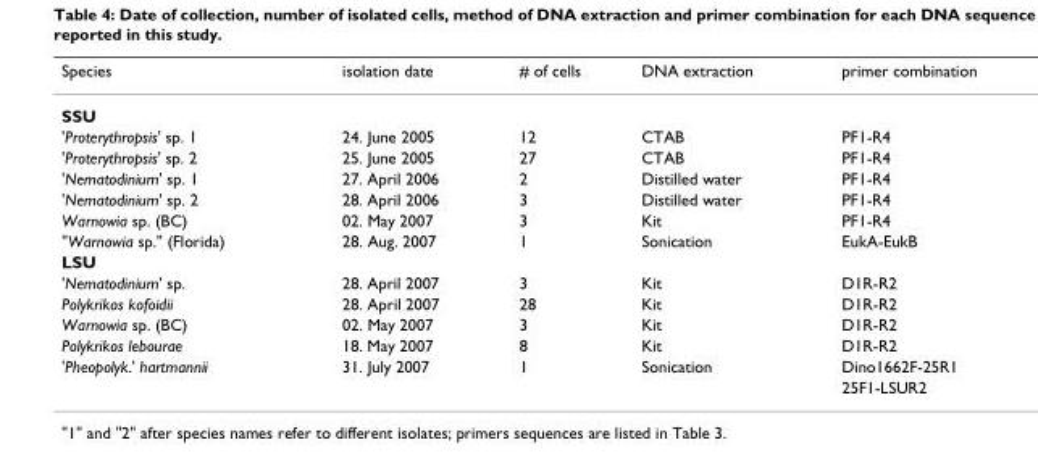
<table><thead><tr><td>Species</td><td>isolation date</td><td># of cells</td><td>DNA extraction</td><td>primer combination</td></tr></thead><tbody><tr><td colspan="5">SSU</td></tr><tr><td>&#x27;Proterythropsis&#x27; sp. 1</td><td>24. June 2005</td><td>12</td><td>CTAB</td><td>PF1-R4</td></tr><tr><td>&#x27;Proterythropsis&#x27; sp. 2</td><td>25. June 2005</td><td>27</td><td>CTAB</td><td>PF1-R4</td></tr><tr><td>&#x27;Nematodinium&#x27; sp. 1</td><td>27. April 2006</td><td>2</td><td>Distilled water</td><td>PF1-R4</td></tr><tr><td>&#x27;Nematodinium&#x27; sp. 2</td><td>28. April 2006</td><td>3</td><td>Distilled water</td><td>PF1-R4</td></tr><tr><td>Warnowia sp. (BC)</td><td>02. May 2007</td><td>3</td><td>Kit</td><td>PF1-R4</td></tr><tr><td>&quot;Warnowia sp.&quot; (Florida)</td><td>28. Aug. 2007</td><td>1</td><td>Sonication</td><td>EukA-EukB</td></tr><tr><td colspan="5">LSU</td></tr><tr><td>&#x27;Nematodinium&#x27; sp.</td><td>28. April 2007</td><td>3</td><td>Kit</td><td>D1R-R2</td></tr><tr><td>Polykrikos kofoidii</td><td>28. April 2007</td><td>28</td><td>Kit</td><td>D1R-R2</td></tr><tr><td>Warnowia sp. (BC)</td><td>02. May 2007</td><td>3</td><td>Kit</td><td>D1R-R2</td></tr><tr><td>Polykrikos lebourae</td><td>18. May 2007</td><td>8</td><td>Kit</td><td>D1R-R2</td></tr><tr><td rowspan="2">&#x27;Pheopolyk.&#x27; hartmannii</td><td>31. July 2007</td><td>1</td><td>Sonication</td><td>Dino1662F-25R1</td></tr><tr><td></td><td></td><td></td><td>25F1-LSUR2</td></tr></tbody></table>